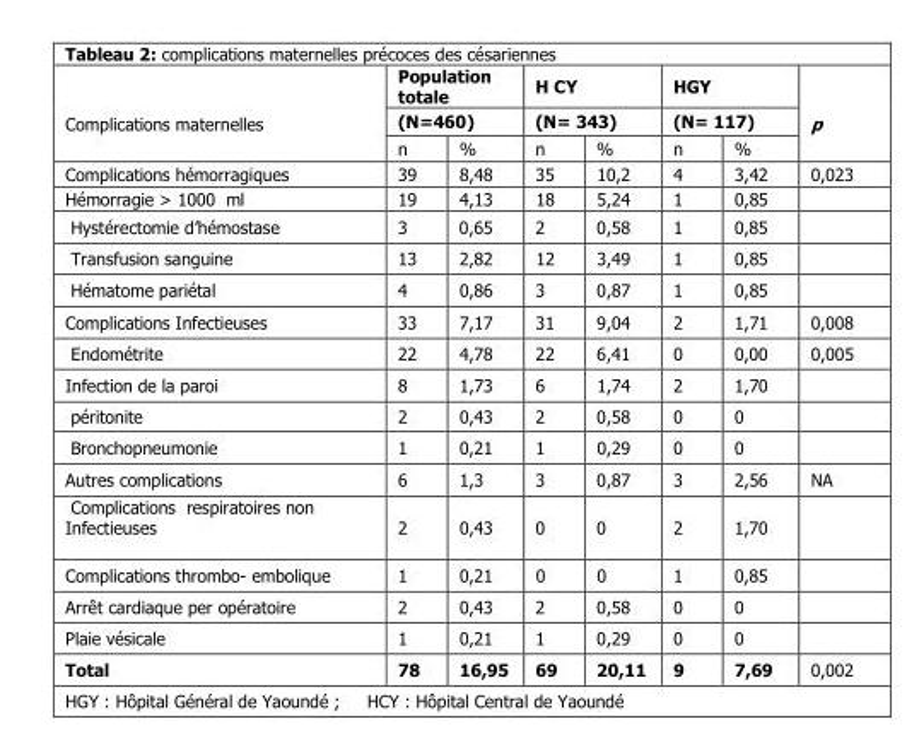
<table><thead><tr><td rowspan="3">Complications maternelles</td><td rowspan="2" colspan="2">Population totale (N=460)</td><td rowspan="2" colspan="2">H CY (N= 343)</td><td rowspan="2" colspan="2">HGY (N= 117)</td><td rowspan="3">p</td></tr><tr></tr><tr><td>n</td><td>%</td><td>n</td><td>%</td><td>n</td><td>%</td></tr></thead><tbody><tr><td>Complications hémorragiques</td><td>39</td><td>8,48</td><td>35</td><td>10,2</td><td>4</td><td>3,42</td><td>0,023</td></tr><tr><td>Hémorragie &gt; 1000 ml</td><td>19</td><td>4,13</td><td>18</td><td>5,24</td><td>1</td><td>0,85</td><td></td></tr><tr><td>Hystérectomie d’hémostase</td><td>3</td><td>0,65</td><td>2</td><td>0,58</td><td>1</td><td>0,85</td><td></td></tr><tr><td>Transfusion sanguine</td><td>13</td><td>2,82</td><td>12</td><td>3,49</td><td>1</td><td>0,85</td><td></td></tr><tr><td>Hématome pariétal</td><td>4</td><td>0,86</td><td>3</td><td>0,87</td><td>1</td><td>0,85</td><td></td></tr><tr><td>Complications Infectieuses</td><td>33</td><td>7,17</td><td>31</td><td>9,04</td><td>2</td><td>1,71</td><td>0,008</td></tr><tr><td>Endométrite</td><td>22</td><td>4,78</td><td>22</td><td>6,41</td><td>0</td><td>0,00</td><td>0,005</td></tr><tr><td>Infection de la paroi</td><td>8</td><td>1,73</td><td>6</td><td>1,74</td><td>2</td><td>1,70</td><td></td></tr><tr><td>péritonite</td><td>2</td><td>0,43</td><td>2</td><td>0,58</td><td>0</td><td>0</td><td></td></tr><tr><td>Bronchopneumonie</td><td>1</td><td>0,21</td><td>1</td><td>0,29</td><td>0</td><td>0</td><td></td></tr><tr><td>Autres complications</td><td>6</td><td>1,3</td><td>3</td><td>0,87</td><td>3</td><td>2,56</td><td>NA</td></tr><tr><td>Complications respiratoires non Infectieuses</td><td>2</td><td>0,43</td><td>0</td><td>0</td><td>2</td><td>1,70</td><td></td></tr><tr><td>Complications thrombo- embolique</td><td>1</td><td>0,21</td><td>0</td><td>0</td><td>1</td><td>0,85</td><td></td></tr><tr><td>Arrêt cardiaque per opératoire</td><td>2</td><td>0,43</td><td>2</td><td>0,58</td><td>0</td><td>0</td><td></td></tr><tr><td>Plaie vésicale</td><td>1</td><td>0,21</td><td>1</td><td>0,29</td><td>0</td><td>0</td><td></td></tr><tr><td>Total</td><td>78</td><td>16,95</td><td>69</td><td>20,11</td><td>9</td><td>7,69</td><td>0,002</td></tr></tbody></table>